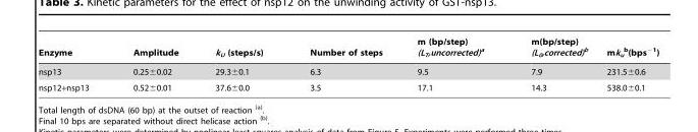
<table><thead><tr><td>Enzyme</td><td>Amplitude</td><td>k<sub>U</sub> (steps/s)</td><td>Number of steps</td><td>m (bp/step) (L<sub>T</sub>,uncorrected)<sup>a</sup></td><td>m(bp/step) (L<sub>0</sub>,corrected)<sup>b</sup></td><td>mk<sub>u</sub> <sup>b</sup>(bps<sup>−1</sup>)</td></tr></thead><tbody><tr><td>nsp13</td><td>0.25±0.02</td><td>29.3±0.1</td><td>6.3</td><td>9.5</td><td>7.9</td><td>231.5±0.6</td></tr><tr><td>nsp12+nsp13</td><td>0.52±0.01</td><td>37.6±0.0</td><td>3.5</td><td>17.1</td><td>14.3</td><td>538.0±0.1</td></tr></tbody></table>